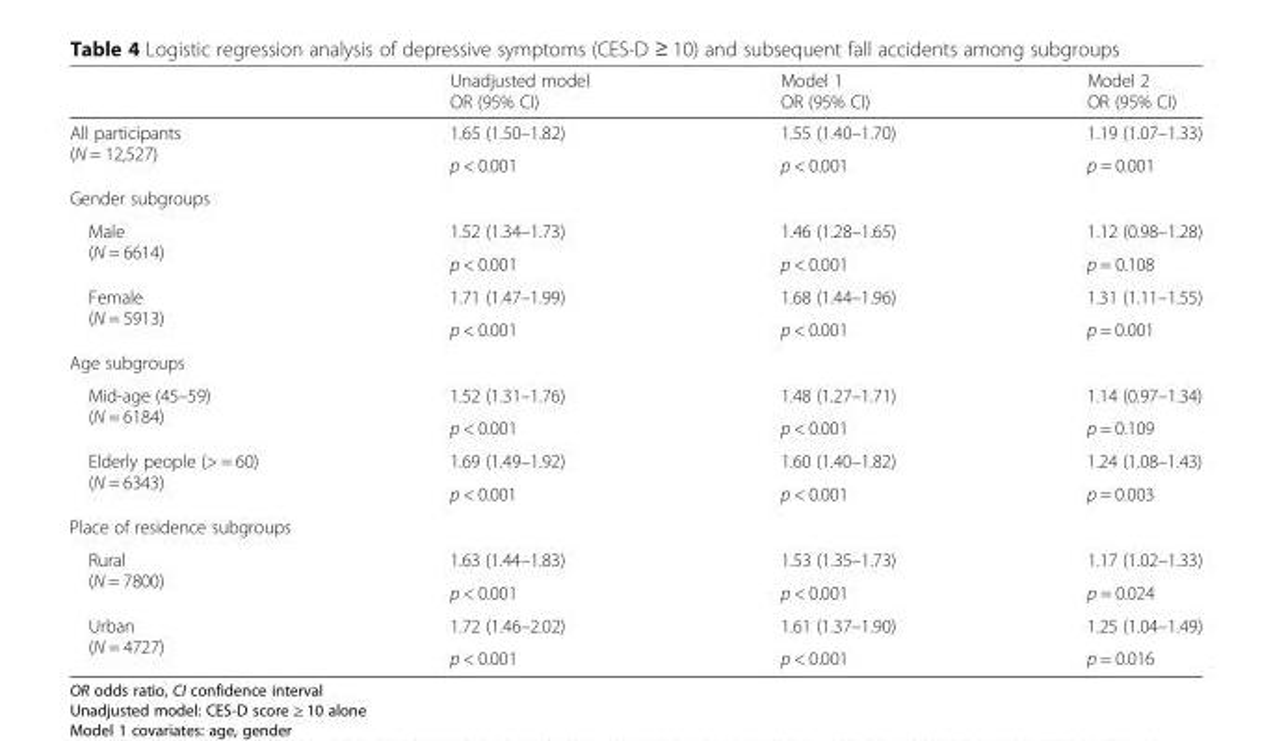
<table><thead><tr><td></td><td>Unadjusted model OR (95% CI)</td><td>Model 1 OR (95% CI)</td><td>Model 2 OR (95% CI)</td></tr></thead><tbody><tr><td rowspan="2">All participants (N = 12,527)</td><td>1.65 (1.50–1.82)</td><td>1.55 (1.40–1.70)</td><td>1.19 (1.07–1.33)</td></tr><tr><td>p &lt; 0.001</td><td>p &lt; 0.001</td><td>p = 0.001</td></tr><tr><td colspan="4">Gender subgroups</td></tr><tr><td rowspan="2">Male (N = 6614)</td><td>1.52 (1.34–1.73)</td><td>1.46 (1.28–1.65)</td><td>1.12 (0.98–1.28)</td></tr><tr><td>p &lt; 0.001</td><td>p &lt; 0.001</td><td>p = 0.108</td></tr><tr><td rowspan="2">Female (N = 5913)</td><td>1.71 (1.47–1.99)</td><td>1.68 (1.44–1.96)</td><td>1.31 (1.11–1.55)</td></tr><tr><td>p &lt; 0.001</td><td>p &lt; 0.001</td><td>p = 0.001</td></tr><tr><td colspan="4">Age subgroups</td></tr><tr><td rowspan="2">Mid-age (45–59) (N = 6184)</td><td>1.52 (1.31–1.76)</td><td>1.48 (1.27–1.71)</td><td>1.14 (0.97–1.34)</td></tr><tr><td>p &lt; 0.001</td><td>p &lt; 0.001</td><td>p = 0.109</td></tr><tr><td rowspan="2">Elderly people (&gt; = 60) (N = 6343)</td><td>1.69 (1.49–1.92)</td><td>1.60 (1.40–1.82)</td><td>1.24 (1.08–1.43)</td></tr><tr><td>p &lt; 0.001</td><td>p &lt; 0.001</td><td>p = 0.003</td></tr><tr><td colspan="4">Place of residence subgroups</td></tr><tr><td rowspan="2">Rural (N = 7800)</td><td>1.63 (1.44–1.83)</td><td>1.53 (1.35–1.73)</td><td>1.17 (1.02–1.33)</td></tr><tr><td>p &lt; 0.001</td><td>p &lt; 0.001</td><td>p = 0.024</td></tr><tr><td rowspan="2">Urban (N = 4727)</td><td>1.72 (1.46–2.02)</td><td>1.61 (1.37–1.90)</td><td>1.25 (1.04–1.49)</td></tr><tr><td>p &lt; 0.001</td><td>p &lt; 0.001</td><td>p = 0.016</td></tr></tbody></table>